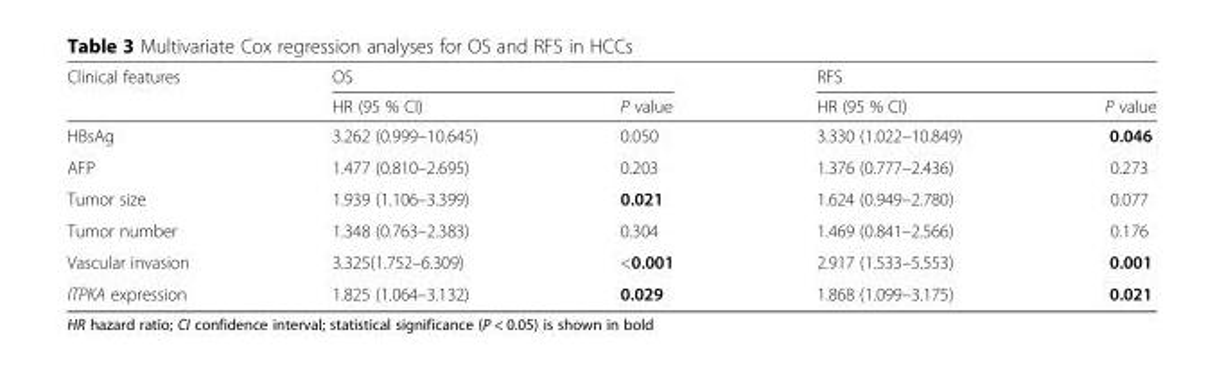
<table><thead><tr><td rowspan="2">Clinical features</td><td colspan="2">OS</td><td colspan="2">RFS</td></tr><tr><td>HR (95 % CI)</td><td>P value</td><td>HR (95 % CI)</td><td>P value</td></tr></thead><tbody><tr><td>HBsAg</td><td>3.262 (0.999–10.645)</td><td>0.050</td><td>3.330 (1.022–10.849)</td><td>0.046</td></tr><tr><td>AFP</td><td>1.477 (0.810–2.695)</td><td>0.203</td><td>1.376 (0.777–2.436)</td><td>0.273</td></tr><tr><td>Tumor size</td><td>1.939 (1.106–3.399)</td><td>0.021</td><td>1.624 (0.949–2.780)</td><td>0.077</td></tr><tr><td>Tumor number</td><td>1.348 (0.763–2.383)</td><td>0.304</td><td>1.469 (0.841–2.566)</td><td>0.176</td></tr><tr><td>Vascular invasion</td><td>3.325(1.752–6.309)</td><td>&lt;0.001</td><td>2.917 (1.533–5.553)</td><td>0.001</td></tr><tr><td>ITPKA expression</td><td>1.825 (1.064–3.132)</td><td>0.029</td><td>1.868 (1.099–3.175)</td><td>0.021</td></tr></tbody></table>